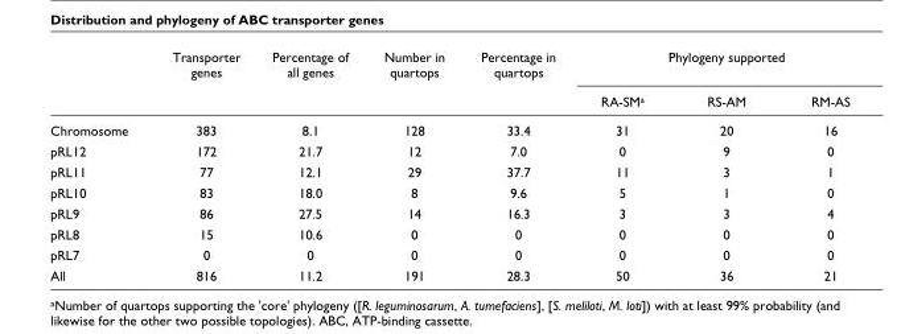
<table><thead><tr><td rowspan="2"></td><td rowspan="2">Transporter genes</td><td rowspan="2">Percentage of all genes</td><td rowspan="2">Number in quartops</td><td rowspan="2">Percentage in quartops</td><td colspan="3">Phylogeny supported</td></tr><tr><td>RA-SMa</td><td>RS-AM</td><td>RM-AS</td></tr></thead><tbody><tr><td>Chromosome</td><td>383</td><td>8.1</td><td>128</td><td>33.4</td><td>31</td><td>20</td><td>16</td></tr><tr><td>pRL12</td><td>172</td><td>21.7</td><td>12</td><td>7.0</td><td>0</td><td>9</td><td>0</td></tr><tr><td>pRL11</td><td>77</td><td>12.1</td><td>29</td><td>37.7</td><td>11</td><td>3</td><td>1</td></tr><tr><td>pRL10</td><td>83</td><td>18.0</td><td>8</td><td>9.6</td><td>5</td><td>1</td><td>0</td></tr><tr><td>pRL9</td><td>86</td><td>27.5</td><td>14</td><td>16.3</td><td>3</td><td>3</td><td>4</td></tr><tr><td>pRL8</td><td>15</td><td>10.6</td><td>0</td><td>0</td><td>0</td><td>0</td><td>0</td></tr><tr><td>pRL7</td><td>0</td><td>0</td><td>0</td><td>0</td><td>0</td><td>0</td><td>0</td></tr><tr><td>All</td><td>816</td><td>11.2</td><td>191</td><td>28.3</td><td>50</td><td>36</td><td>21</td></tr></tbody></table>